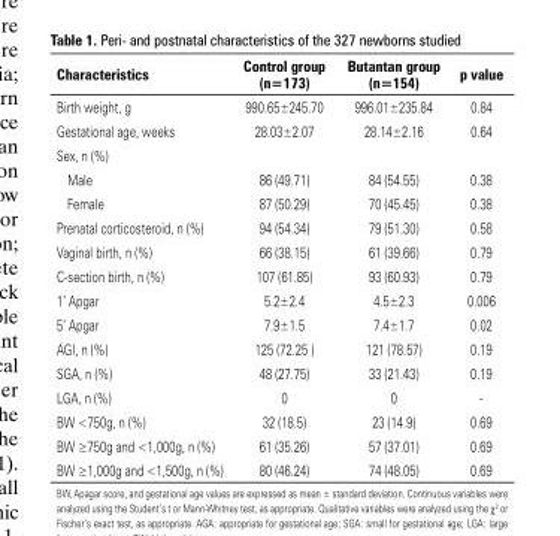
<table><thead><tr><td>Characteristics</td><td>Control group (n=173)</td><td>Butantan group (n=154)</td><td>p value</td></tr></thead><tbody><tr><td>Birth weight, g</td><td>990.65±245.70</td><td>996.01±235.84</td><td>0.84</td></tr><tr><td>Gestational age, weeks</td><td>28.03±2.07</td><td>28.14±2.16</td><td>0.64</td></tr><tr><td colspan="4">Sex, n (%)</td></tr><tr><td>Male</td><td>86 (49.71)</td><td>84 (54.55)</td><td>0.38</td></tr><tr><td>Female</td><td>87 (50.29)</td><td>70 (45.45)</td><td>0.38</td></tr><tr><td>Prenatal corticosteroid, n (%)</td><td>94 (54.34)</td><td>79 (51.30)</td><td>0.58</td></tr><tr><td>Vaginal birth, n (%)</td><td>66 (38.15)</td><td>61 (39.66)</td><td>0.79</td></tr><tr><td>C-section birth, n (%)</td><td>107 (61.85)</td><td>93 (60.93)</td><td>0.79</td></tr><tr><td>1’ Apgar</td><td>5.2±2.4</td><td>4.5±2.3</td><td>0.006</td></tr><tr><td>5’ Apgar</td><td>7.9±1.5</td><td>7.4±1.7</td><td>0.02</td></tr><tr><td>AGI, n (%)</td><td>125 (72.25 )</td><td>121 (78.57)</td><td>0.19</td></tr><tr><td>SGA, n (%)</td><td>48 (27.75)</td><td>33 (21.43)</td><td>0.19</td></tr><tr><td>LGA, n (%)</td><td>0</td><td>0</td><td>-</td></tr><tr><td>BW &lt;750g, n (%)</td><td>32 (18.5)</td><td>23 (14.9)</td><td>0.69</td></tr><tr><td>BW ≥750g and &lt;1,000g, n (%)</td><td>61 (35.26)</td><td>57 (37.01)</td><td>0.69</td></tr><tr><td>BW ≥1,000g and &lt;1,500g, n (%)</td><td>80 (46.24)</td><td>74 (48.05)</td><td>0.69</td></tr></tbody></table>